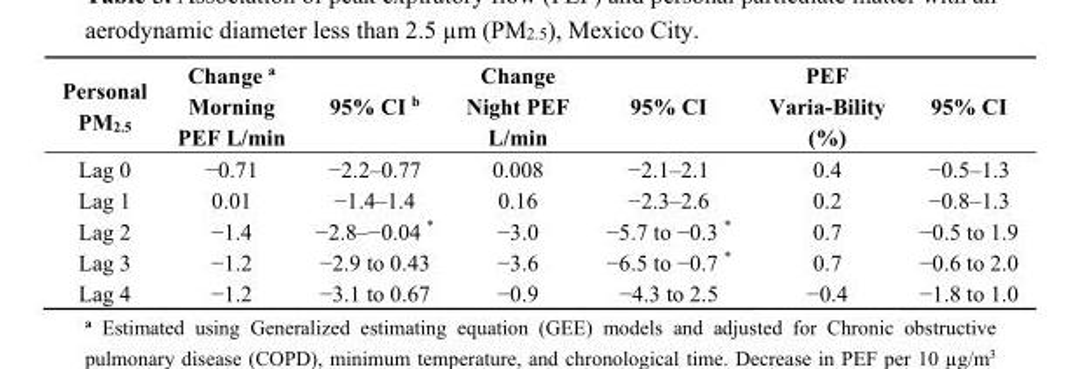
<table><thead><tr><td>Personal PM<sub>2.5</sub></td><td>Change <sup>a</sup> Morning PEF L/min</td><td>95% CI <sup>b</sup></td><td>Change Night PEF L/min</td><td>95% CI</td><td>PEF Varia-Bility (%)</td><td>95% CI</td></tr></thead><tbody><tr><td>Lag 0</td><td>−0.71</td><td>−2.2–0.77</td><td>0.008</td><td>−2.1–2.1</td><td>0.4</td><td>−0.5–1.3</td></tr><tr><td>Lag 1</td><td>0.01</td><td>−1.4–1.4</td><td>0.16</td><td>−2.3–2.6</td><td>0.2</td><td>−0.8–1.3</td></tr><tr><td>Lag 2</td><td>−1.4</td><td>−2.8–−0.04 *</td><td>−3.0</td><td>−5.7 to −0.3 *</td><td>0.7</td><td>−0.5 to 1.9</td></tr><tr><td>Lag 3</td><td>−1.2</td><td>−2.9 to 0.43</td><td>−3.6</td><td>−6.5 to −0.7 *</td><td>0.7</td><td>−0.6 to 2.0</td></tr><tr><td>Lag 4</td><td>−1.2</td><td>−3.1 to 0.67</td><td>−0.9</td><td>−4.3 to 2.5</td><td>−0.4</td><td>−1.8 to 1.0</td></tr></tbody></table>